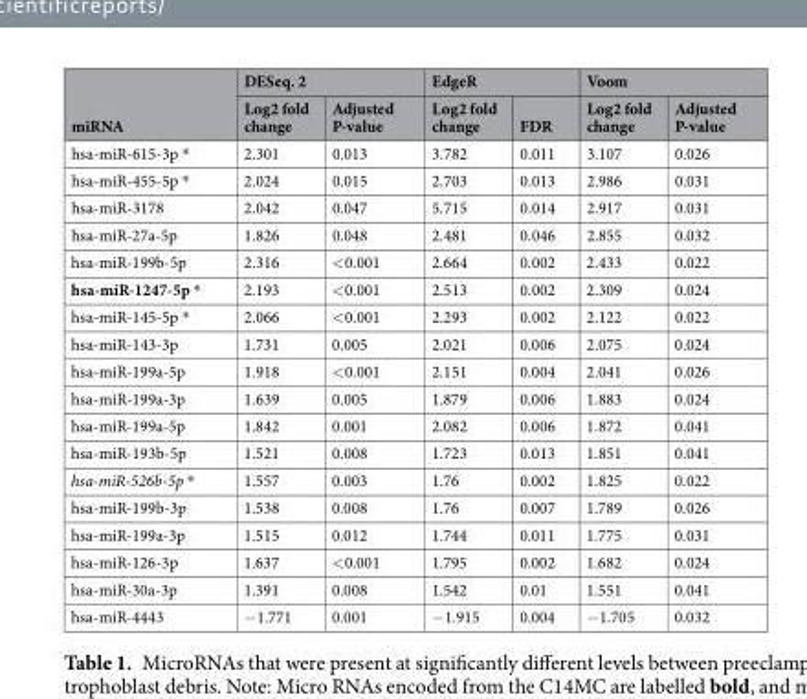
<table><thead><tr><td rowspan="2">miRNA</td><td colspan="2">DESeq. 2</td><td colspan="2">EdgeR</td><td colspan="2">Voom</td></tr><tr><td>Log2 fold change</td><td>Adjusted P-value</td><td>Log2 fold change</td><td>FDR</td><td>Log2 fold change</td><td>Adjusted P-value</td></tr></thead><tbody><tr><td>hsa-miR-615-3p *</td><td>2.301</td><td>0.013</td><td>3.782</td><td>0.011</td><td>3.107</td><td>0.026</td></tr><tr><td>hsa-miR-455-5p *</td><td>2.024</td><td>0.015</td><td>2.703</td><td>0.013</td><td>2.986</td><td>0.031</td></tr><tr><td>hsa-miR-3178</td><td>2.042</td><td>0.047</td><td>5.715</td><td>0.014</td><td>2.917</td><td>0.031</td></tr><tr><td>hsa-miR-27a-5p</td><td>1.826</td><td>0.048</td><td>2.481</td><td>0.046</td><td>2.855</td><td>0.032</td></tr><tr><td>hsa-miR-199b-5p</td><td>2.316</td><td>&lt;0.001</td><td>2.664</td><td>0.002</td><td>2.433</td><td>0.022</td></tr><tr><td>hsa-miR-1247-5p *</td><td>2.193</td><td>&lt;0.001</td><td>2.513</td><td>0.002</td><td>2.309</td><td>0.024</td></tr><tr><td>hsa-miR-145-5p *</td><td>2.066</td><td>&lt;0.001</td><td>2.293</td><td>0.002</td><td>2.122</td><td>0.022</td></tr><tr><td>hsa-miR-143-3p</td><td>1.731</td><td>0.005</td><td>2.021</td><td>0.006</td><td>2.075</td><td>0.024</td></tr><tr><td>hsa-miR-199a-5p</td><td>1.918</td><td>&lt;0.001</td><td>2.151</td><td>0.004</td><td>2.041</td><td>0.026</td></tr><tr><td>hsa-miR-199a-3p</td><td>1.639</td><td>0.005</td><td>1.879</td><td>0.006</td><td>1.883</td><td>0.024</td></tr><tr><td>hsa-miR-199a-5p</td><td>1.842</td><td>0.001</td><td>2.082</td><td>0.006</td><td>1.872</td><td>0.041</td></tr><tr><td>hsa-miR-193b-5p</td><td>1.521</td><td>0.008</td><td>1.723</td><td>0.013</td><td>1.851</td><td>0.041</td></tr><tr><td>hsa-miR-526b-5p *</td><td>1.557</td><td>0.003</td><td>1.76</td><td>0.002</td><td>1.825</td><td>0.022</td></tr><tr><td>hsa-miR-199b-3p</td><td>1.538</td><td>0.008</td><td>1.76</td><td>0.007</td><td>1.789</td><td>0.026</td></tr><tr><td>hsa-miR-199a-3p</td><td>1.515</td><td>0.012</td><td>1.744</td><td>0.011</td><td>1.775</td><td>0.031</td></tr><tr><td>hsa-miR-126-3p</td><td>1.637</td><td>&lt;0.001</td><td>1.795</td><td>0.002</td><td>1.682</td><td>0.024</td></tr><tr><td>hsa-miR-30a-3p</td><td>1.391</td><td>0.008</td><td>1.542</td><td>0.01</td><td>1.551</td><td>0.041</td></tr><tr><td>hsa-miR-4443</td><td>−1.771</td><td>0.001</td><td>−1.915</td><td>0.004</td><td>−1.705</td><td>0.032</td></tr></tbody></table>